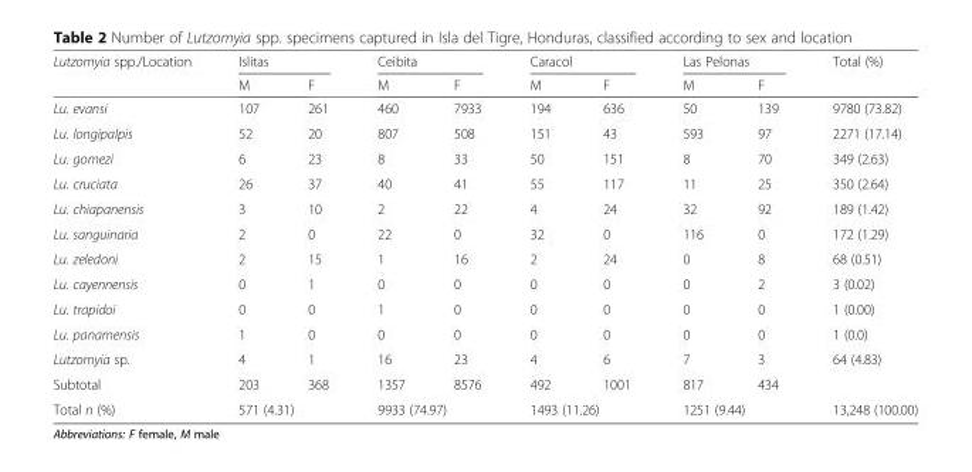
<table><thead><tr><td rowspan="2">Lutzomyia spp./Location</td><td colspan="2">Islitas</td><td colspan="2">Ceibita</td><td colspan="2">Caracol</td><td colspan="2">Las Pelonas</td><td rowspan="2">Total (%)</td></tr><tr><td>M</td><td>F</td><td>M</td><td>F</td><td>M</td><td>F</td><td>M</td><td>F</td></tr></thead><tbody><tr><td>Lu. evansi</td><td>107</td><td>261</td><td>460</td><td>7933</td><td>194</td><td>636</td><td>50</td><td>139</td><td>9780 (73.82)</td></tr><tr><td>Lu. longipalpis</td><td>52</td><td>20</td><td>807</td><td>508</td><td>151</td><td>43</td><td>593</td><td>97</td><td>2271 (17.14)</td></tr><tr><td>Lu. gomezi</td><td>6</td><td>23</td><td>8</td><td>33</td><td>50</td><td>151</td><td>8</td><td>70</td><td>349 (2.63)</td></tr><tr><td>Lu. cruciata</td><td>26</td><td>37</td><td>40</td><td>41</td><td>55</td><td>117</td><td>11</td><td>25</td><td>350 (2.64)</td></tr><tr><td>Lu. chiapanensis</td><td>3</td><td>10</td><td>2</td><td>22</td><td>4</td><td>24</td><td>32</td><td>92</td><td>189 (1.42)</td></tr><tr><td>Lu. sanguinaria</td><td>2</td><td>0</td><td>22</td><td>0</td><td>32</td><td>0</td><td>116</td><td>0</td><td>172 (1.29)</td></tr><tr><td>Lu. zeledoni</td><td>2</td><td>15</td><td>1</td><td>16</td><td>2</td><td>24</td><td>0</td><td>8</td><td>68 (0.51)</td></tr><tr><td>Lu. cayennensis</td><td>0</td><td>1</td><td>0</td><td>0</td><td>0</td><td>0</td><td>0</td><td>2</td><td>3 (0.02)</td></tr><tr><td>Lu. trapidoi</td><td>0</td><td>0</td><td>1</td><td>0</td><td>0</td><td>0</td><td>0</td><td>0</td><td>1 (0.00)</td></tr><tr><td>Lu. panamensis</td><td>1</td><td>0</td><td>0</td><td>0</td><td>0</td><td>0</td><td>0</td><td>0</td><td>1 (0.0)</td></tr><tr><td>Lutzomyia sp.</td><td>4</td><td>1</td><td>16</td><td>23</td><td>4</td><td>6</td><td>7</td><td>3</td><td>64 (4.83)</td></tr><tr><td>Subtotal</td><td>203</td><td>368</td><td>1357</td><td>8576</td><td>492</td><td>1001</td><td>817</td><td>434</td><td></td></tr><tr><td>Total n (%)</td><td colspan="2">571 (4.31)</td><td colspan="2">9933 (74.97)</td><td colspan="2">1493 (11.26)</td><td colspan="2">1251 (9.44)</td><td>13,248 (100.00)</td></tr></tbody></table>